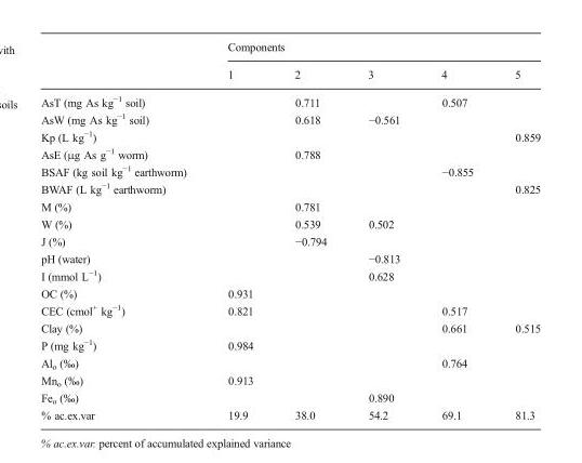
<table><thead><tr><td rowspan="2"></td><td colspan="5">Components</td></tr><tr><td>1</td><td>2</td><td>3</td><td>4</td><td>5</td></tr></thead><tbody><tr><td>AsT (mg As kg<sup>−1</sup> soil)</td><td></td><td>0.711</td><td></td><td>0.507</td><td></td></tr><tr><td>AsW (mg As kg<sup>−1</sup> soil)</td><td></td><td>0.618</td><td>−0.561</td><td></td><td></td></tr><tr><td>Kp (L kg<sup>−1</sup>)</td><td></td><td></td><td></td><td></td><td>0.859</td></tr><tr><td>AsE (μg As g<sup>−1</sup> worm)</td><td></td><td>0.788</td><td></td><td></td><td></td></tr><tr><td>BSAF (kg soil kg<sup>−1</sup> earthworm)</td><td></td><td></td><td></td><td>−0.855</td><td></td></tr><tr><td>BWAF (L kg<sup>−1</sup> earthworm)</td><td></td><td></td><td></td><td></td><td>0.825</td></tr><tr><td>M (%)</td><td></td><td>0.781</td><td></td><td></td><td></td></tr><tr><td>W (%)</td><td></td><td>0.539</td><td>0.502</td><td></td><td></td></tr><tr><td>J (%)</td><td></td><td>−0.794</td><td></td><td></td><td></td></tr><tr><td>pH (water)</td><td></td><td></td><td>−0.813</td><td></td><td></td></tr><tr><td>I (mmol L<sup>−1</sup>)</td><td></td><td></td><td>0.628</td><td></td><td></td></tr><tr><td>OC (%)</td><td>0.931</td><td></td><td></td><td></td><td></td></tr><tr><td>CEC (cmol<sup>+</sup> kg<sup>−1</sup>)</td><td>0.821</td><td></td><td></td><td>0.517</td><td></td></tr><tr><td>Clay (%)</td><td></td><td></td><td></td><td>0.661</td><td>0.515</td></tr><tr><td>P (mg kg<sup>−1</sup>)</td><td>0.984</td><td></td><td></td><td></td><td></td></tr><tr><td>Al<sub>o</sub> (‰)</td><td></td><td></td><td></td><td>0.764</td><td></td></tr><tr><td>Mn<sub>o</sub> (‰)</td><td>0.913</td><td></td><td></td><td></td><td></td></tr><tr><td>Fe<sub>o</sub> (‰)</td><td></td><td></td><td>0.890</td><td></td><td></td></tr><tr><td>% ac.ex.var</td><td>19.9</td><td>38.0</td><td>54.2</td><td>69.1</td><td>81.3</td></tr></tbody></table>